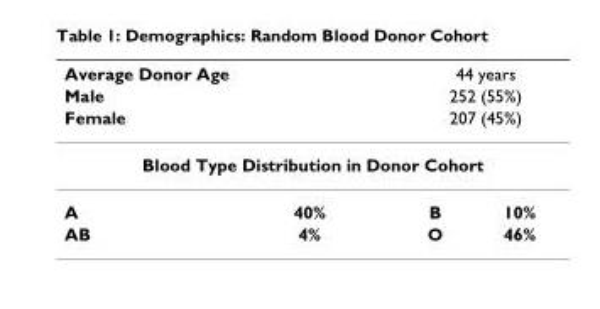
<table><thead><tr><td rowspan="3" colspan="2">Average Donor Age Male Female</td><td rowspan="3" colspan="2">44 years 252 (55%) 207 (45%)</td></tr><tr></tr><tr></tr><tr><td colspan="4">Blood Type Distribution in Donor Cohort</td></tr><tr><td>A</td><td>40%</td><td>B</td><td>10%</td></tr></thead><tbody><tr><td>AB</td><td>4%</td><td>O</td><td>46%</td></tr></tbody></table>